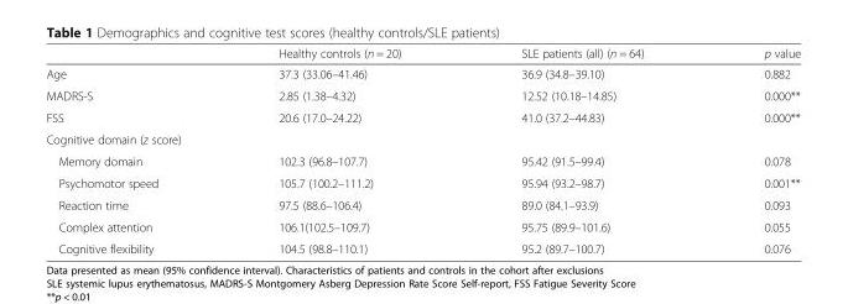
<table><thead><tr><td></td><td>Healthy controls (n = 20)</td><td>SLE patients (all) (n = 64)</td><td>p value</td></tr></thead><tbody><tr><td>Age</td><td>37.3 (33.06–41.46)</td><td>36.9 (34.8–39.10)</td><td>0.882</td></tr><tr><td>MADRS-S</td><td>2.85 (1.38–4.32)</td><td>12.52 (10.18–14.85)</td><td>0.000**</td></tr><tr><td>FSS</td><td>20.6 (17.0–24.22)</td><td>41.0 (37.2–44.83)</td><td>0.000**</td></tr><tr><td colspan="4">Cognitive domain (z score)</td></tr><tr><td>Memory domain</td><td>102.3 (96.8–107.7)</td><td>95.42 (91.5–99.4)</td><td>0.078</td></tr><tr><td>Psychomotor speed</td><td>105.7 (100.2–111.2)</td><td>95.94 (93.2–98.7)</td><td>0.001**</td></tr><tr><td>Reaction time</td><td>97.5 (88.6–106.4)</td><td>89.0 (84.1–93.9)</td><td>0.093</td></tr><tr><td>Complex attention</td><td>106.1(102.5–109.7)</td><td>95.75 (89.9–101.6)</td><td>0.055</td></tr><tr><td>Cognitive flexibility</td><td>104.5 (98.8–110.1)</td><td>95.2 (89.7–100.7)</td><td>0.076</td></tr></tbody></table>